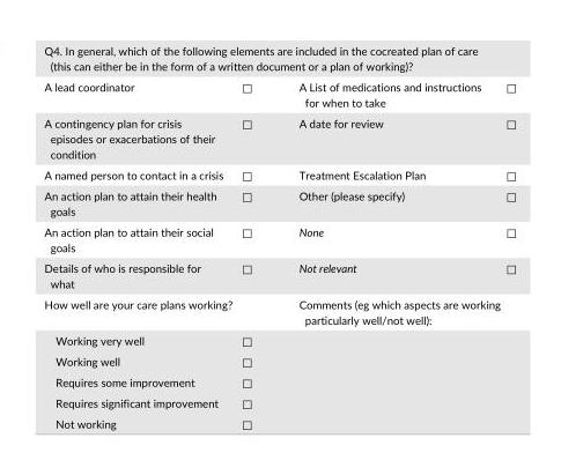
<table><tbody><tr><td colspan="4">Q4. In general, which of the following elements are included in the cocreated plan of care (this can either be in the form of a written document or a plan of working)?</td></tr><tr><td>A lead coordinator</td><td>□</td><td>A List of medications and instructions for when to take</td><td>□</td></tr><tr><td>A contingency plan for crisis episodes or exacerbations of their condition</td><td>□</td><td>A date for review</td><td>□</td></tr><tr><td>A named person to contact in a crisis</td><td>□</td><td>Treatment Escalation Plan</td><td>□</td></tr><tr><td>An action plan to attain their health goals</td><td>□</td><td>Other (please specify)</td><td>□</td></tr><tr><td>An action plan to attain their social goals</td><td>□</td><td>None</td><td>□</td></tr><tr><td>Details of who is responsible for what</td><td>□</td><td>Not relevant</td><td>□</td></tr><tr><td colspan="2">How well are your care plans working?</td><td colspan="2">Comments (eg which aspects are working particularly well/not well):</td></tr><tr><td>Working very well</td><td>□</td><td rowspan="5" colspan="2"></td></tr><tr><td>Working well</td><td>□</td></tr><tr><td>Requires some improvement</td><td>□</td></tr><tr><td>Requires significant improvement</td><td>□</td></tr><tr><td>Not working</td><td>□</td></tr></tbody></table>